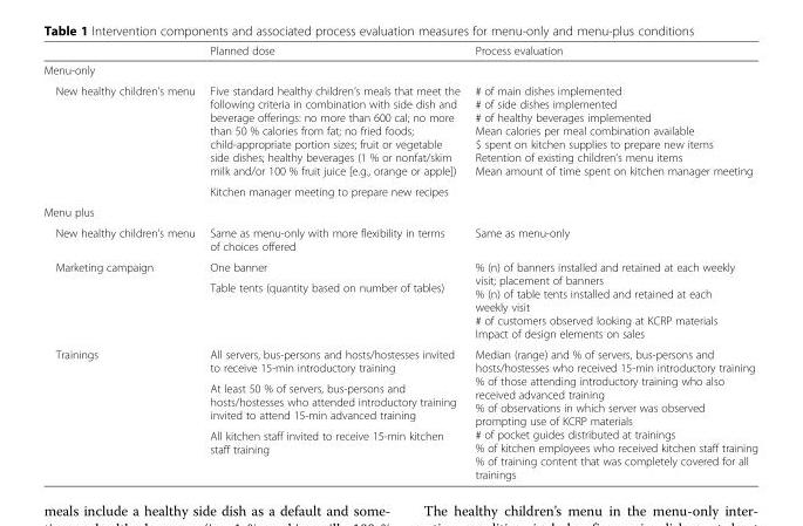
<table><thead><tr><td></td><td>Planned dose</td><td>Process evaluation</td></tr></thead><tbody><tr><td colspan="3">Menu-only</td></tr><tr><td rowspan="2">New healthy children’s menu</td><td>Five standard healthy children’s meals that meet the following criteria in combination with side dish and beverage offerings: no more than 600 cal; no more than 50 % calories from fat; no fried foods; child-appropriate portion sizes; fruit or vegetable side dishes; healthy beverages (1 % or nonfat/skim milk and/or 100 % fruit juice [e.g., orange or apple])</td><td rowspan="2"># of main dishes implemented # of side dishes implemented # of healthy beverages implemented Mean calories per meal combination available $ spent on kitchen supplies to prepare new items Retention of existing children’s menu items Mean amount of time spent on kitchen manager meeting</td></tr><tr><td>Kitchen manager meeting to prepare new recipes</td></tr><tr><td colspan="3">Menu plus</td></tr><tr><td>New healthy children’s menu</td><td>Same as menu-only with more flexibility in terms of choices offered</td><td>Same as menu-only</td></tr><tr><td rowspan="2">Marketing campaign</td><td>One banner</td><td rowspan="2">% (n) of banners installed and retained at each weekly visit; placement of banners % (n) of table tents installed and retained at each weekly visit # of customers observed looking at KCRP materials Impact of design elements on sales</td></tr><tr><td>Table tents (quantity based on number of tables)</td></tr><tr><td rowspan="3">Trainings</td><td>All servers, bus-persons and hosts/hostesses invited to receive 15-min introductory training</td><td rowspan="3">Median (range) and % of servers, bus-persons and hosts/hostesses who received 15-min introductory training % of those attending introductory training who also received advanced training % of observations in which server was observed prompting use of KCRP materials # of pocket guides distributed at trainings % of kitchen employees who received kitchen staff training % of training content that was completely covered for all trainings</td></tr><tr><td>At least 50 % of servers, bus-persons and hosts/hostesses who attended introductory training invited to attend 15-min advanced training</td></tr><tr><td>All kitchen staff invited to receive 15-min kitchen staff training</td></tr></tbody></table>